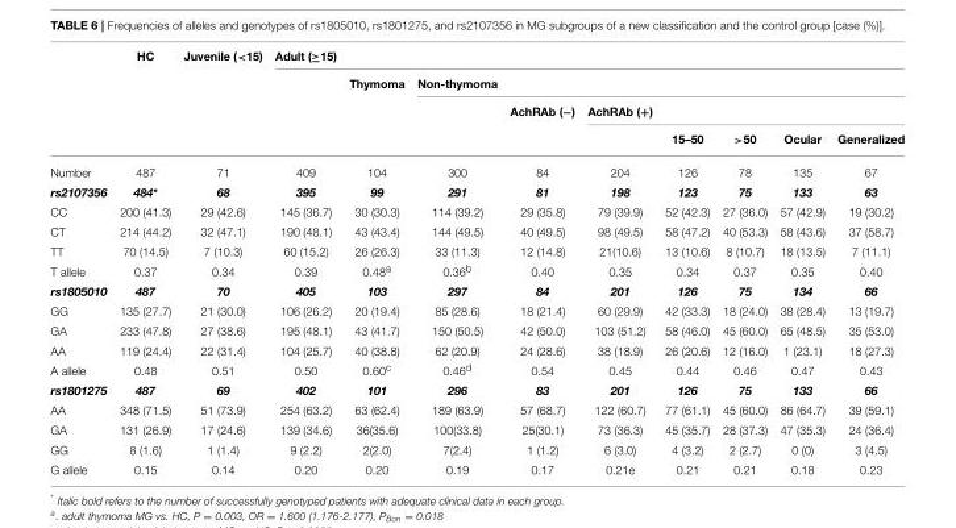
<table><thead><tr><td rowspan="4"></td><td rowspan="4">HC</td><td rowspan="4">Juvenile (&lt;15)</td><td rowspan="4">Adult (≥15)</td><td rowspan="4">Thymoma</td><td rowspan="4">Non-thymoma</td><td rowspan="4">AchRAb (−)</td><td rowspan="4">AchRAb (+)</td><td rowspan="4">15–50</td><td rowspan="4">&gt;50</td><td rowspan="4">Ocular</td><td rowspan="4">Generalized</td></tr><tr></tr><tr></tr><tr></tr></thead><tbody><tr><td>Number</td><td>487</td><td>71</td><td>409</td><td>104</td><td>300</td><td>84</td><td>204</td><td>126</td><td>78</td><td>135</td><td>67</td></tr><tr><td>rs2107356</td><td>484*</td><td>68</td><td>395</td><td>99</td><td>291</td><td>81</td><td>198</td><td>123</td><td>75</td><td>133</td><td>63</td></tr><tr><td>CC</td><td>200 (41.3)</td><td>29 (42.6)</td><td>145 (36.7)</td><td>30 (30.3)</td><td>114 (39.2)</td><td>29 (35.8)</td><td>79 (39.9)</td><td>52 (42.3)</td><td>27 (36.0)</td><td>57 (42.9)</td><td>19 (30.2)</td></tr><tr><td>CT</td><td>214 (44.2)</td><td>32 (47.1)</td><td>190 (48.1)</td><td>43 (43.4)</td><td>144 (49.5)</td><td>40 (49.5)</td><td>98 (49.5)</td><td>58 (47.2)</td><td>40 (53.3)</td><td>58 (43.6)</td><td>37 (58.7)</td></tr><tr><td>TT</td><td>70 (14.5)</td><td>7 (10.3)</td><td>60 (15.2)</td><td>26 (26.3)</td><td>33 (11.3)</td><td>12 (14.8)</td><td>21(10.6)</td><td>13 (10.6)</td><td>8 (10.7)</td><td>18 (13.5)</td><td>7 (11.1)</td></tr><tr><td>T allele</td><td>0.37</td><td>0.34</td><td>0.39</td><td>0.48<sup>a</sup></td><td>0.36<sup>b</sup></td><td>0.40</td><td>0.35</td><td>0.34</td><td>0.37</td><td>0.35</td><td>0.40</td></tr><tr><td>rs1805010</td><td>487</td><td>70</td><td>405</td><td>103</td><td>297</td><td>84</td><td>201</td><td>126</td><td>75</td><td>134</td><td>66</td></tr><tr><td>GG</td><td>135 (27.7)</td><td>21 (30.0)</td><td>106 (26.2)</td><td>20 (19.4)</td><td>85 (28.6)</td><td>18 (21.4)</td><td>60 (29.9)</td><td>42 (33.3)</td><td>18 (24.0)</td><td>38 (28.4)</td><td>13 (19.7)</td></tr><tr><td>GA</td><td>233 (47.8)</td><td>27 (38.6)</td><td>195 (48.1)</td><td>43 (41.7)</td><td>150 (50.5)</td><td>42 (50.0)</td><td>103 (51.2)</td><td>58 (46.0)</td><td>45 (60.0)</td><td>65 (48.5)</td><td>35 (53.0)</td></tr><tr><td>AA</td><td>119 (24.4)</td><td>22 (31.4)</td><td>104 (25.7)</td><td>40 (38.8)</td><td>62 (20.9)</td><td>24 (28.6)</td><td>38 (18.9)</td><td>26 (20.6)</td><td>12 (16.0)</td><td>1 (23.1)</td><td>18 (27.3)</td></tr><tr><td>A allele</td><td>0.48</td><td>0.51</td><td>0.50</td><td>0.60<sup>c</sup></td><td>0.46<sup>d</sup></td><td>0.54</td><td>0.45</td><td>0.44</td><td>0.46</td><td>0.47</td><td>0.43</td></tr><tr><td>rs1801275</td><td>487</td><td>69</td><td>402</td><td>101</td><td>296</td><td>83</td><td>201</td><td>126</td><td>75</td><td>133</td><td>66</td></tr><tr><td>AA</td><td>348 (71.5)</td><td>51 (73.9)</td><td>254 (63.2)</td><td>63 (62.4)</td><td>189 (63.9)</td><td>57 (68.7)</td><td>122 (60.7)</td><td>77 (61.1)</td><td>45 (60.0)</td><td>86 (64.7)</td><td>39 (59.1)</td></tr><tr><td>GA</td><td>131 (26.9)</td><td>17 (24.6)</td><td>139 (34.6)</td><td>36(35.6)</td><td>100(33.8)</td><td>25(30.1)</td><td>73 (36.3)</td><td>45 (35.7)</td><td>28 (37.3)</td><td>47 (35.3)</td><td>24 (36.4)</td></tr><tr><td>GG</td><td>8 (1.6)</td><td>1 (1.4)</td><td>9 (2.2)</td><td>2(2.0)</td><td>7(2.4)</td><td>1 (1.2)</td><td>6 (3.0)</td><td>4 (3.2)</td><td>2 (2.7)</td><td>0 (0)</td><td>3 (4.5)</td></tr><tr><td>G allele</td><td>0.15</td><td>0.14</td><td>0.20</td><td>0.20</td><td>0.19</td><td>0.17</td><td>0.21<sup>e</sup></td><td>0.21</td><td>0.21</td><td>0.18</td><td>0.23</td></tr></tbody></table>